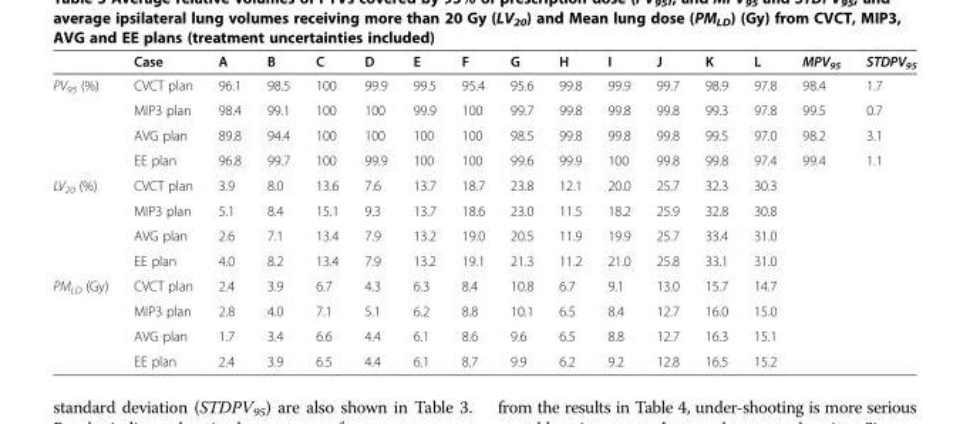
<table><thead><tr><td></td><td>Case</td><td>A</td><td>B</td><td>C</td><td>D</td><td>E</td><td>F</td><td>G</td><td>H</td><td>I</td><td>J</td><td>K</td><td>L</td><td>MPV<sub>95</sub></td><td>STDPV<sub>95</sub></td></tr></thead><tbody><tr><td rowspan="4">PV<sub>95</sub> (%)</td><td>CVCT plan</td><td>96.1</td><td>98.5</td><td>100</td><td>99.9</td><td>99.5</td><td>95.4</td><td>95.6</td><td>99.8</td><td>99.9</td><td>99.7</td><td>98.9</td><td>97.8</td><td>98.4</td><td>1.7</td></tr><tr><td>MIP3 plan</td><td>98.4</td><td>99.1</td><td>100</td><td>100</td><td>99.9</td><td>100</td><td>99.7</td><td>99.8</td><td>99.8</td><td>99.8</td><td>99.3</td><td>97.8</td><td>99.5</td><td>0.7</td></tr><tr><td>AVG plan</td><td>89.8</td><td>94.4</td><td>100</td><td>100</td><td>100</td><td>100</td><td>98.5</td><td>99.8</td><td>99.8</td><td>99.8</td><td>99.5</td><td>97.0</td><td>98.2</td><td>3.1</td></tr><tr><td>EE plan</td><td>96.8</td><td>99.7</td><td>100</td><td>99.9</td><td>100</td><td>100</td><td>99.6</td><td>99.9</td><td>100</td><td>99.8</td><td>99.8</td><td>97.4</td><td>99.4</td><td>1.1</td></tr><tr><td rowspan="4">LV<sub>20</sub> (%)</td><td>CVCT plan</td><td>3.9</td><td>8.0</td><td>13.6</td><td>7.6</td><td>13.7</td><td>18.7</td><td>23.8</td><td>12.1</td><td>20.0</td><td>25.7</td><td>32.3</td><td>30.3</td><td></td><td></td></tr><tr><td>MIP3 plan</td><td>5.1</td><td>8.4</td><td>15.1</td><td>9.3</td><td>13.7</td><td>18.6</td><td>23.0</td><td>11.5</td><td>18.2</td><td>25.9</td><td>32.8</td><td>30.8</td><td></td><td></td></tr><tr><td>AVG plan</td><td>2.6</td><td>7.1</td><td>13.4</td><td>7.9</td><td>13.2</td><td>19.0</td><td>20.5</td><td>11.9</td><td>19.9</td><td>25.7</td><td>33.4</td><td>31.0</td><td></td><td></td></tr><tr><td>EE plan</td><td>4.0</td><td>8.2</td><td>13.4</td><td>7.9</td><td>13.2</td><td>19.1</td><td>21.3</td><td>11.2</td><td>21.0</td><td>25.8</td><td>33.1</td><td>31.0</td><td></td><td></td></tr><tr><td rowspan="4">PM<sub>LD</sub> (Gy)</td><td>CVCT plan</td><td>2.4</td><td>3.9</td><td>6.7</td><td>4.3</td><td>6.3</td><td>8.4</td><td>10.8</td><td>6.7</td><td>9.1</td><td>13.0</td><td>15.7</td><td>14.7</td><td></td><td></td></tr><tr><td>MIP3 plan</td><td>2.8</td><td>4.0</td><td>7.1</td><td>5.1</td><td>6.2</td><td>8.8</td><td>10.1</td><td>6.5</td><td>8.4</td><td>12.7</td><td>16.0</td><td>15.0</td><td></td><td></td></tr><tr><td>AVG plan</td><td>1.7</td><td>3.4</td><td>6.6</td><td>4.4</td><td>6.1</td><td>8.6</td><td>9.6</td><td>6.5</td><td>8.8</td><td>12.7</td><td>16.3</td><td>15.1</td><td></td><td></td></tr><tr><td>EE plan</td><td>2.4</td><td>3.9</td><td>6.5</td><td>4.4</td><td>6.1</td><td>8.7</td><td>9.9</td><td>6.2</td><td>9.2</td><td>12.8</td><td>16.5</td><td>15.2</td><td></td><td></td></tr></tbody></table>